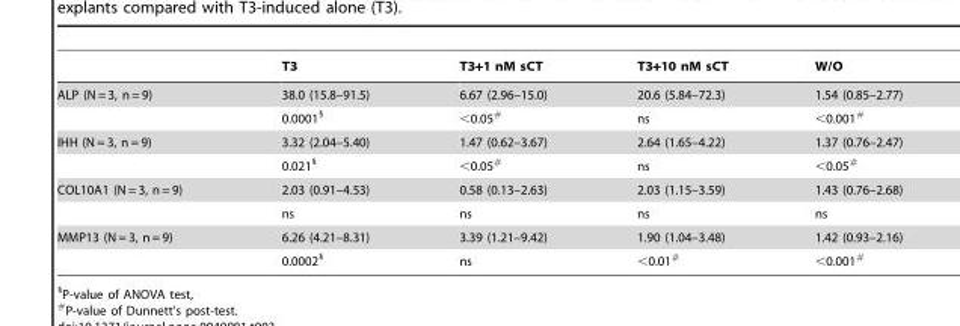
<table><thead><tr><td></td><td>T3</td><td>T3+1 nM sCT</td><td>T3+10 nM sCT</td><td>W/O</td></tr></thead><tbody><tr><td rowspan="2">ALP (N = 3, n = 9)</td><td>38.0 (15.8–91.5)</td><td>6.67 (2.96–15.0)</td><td>20.6 (5.84–72.3)</td><td>1.54 (0.85–2.77)</td></tr><tr><td>0.0001§</td><td>&lt;0.05#</td><td>ns</td><td>&lt;0.001#</td></tr><tr><td rowspan="2">IHH (N = 3, n = 9)</td><td>3.32 (2.04–5.40)</td><td>1.47 (0.62–3.67)</td><td>2.64 (1.65–4.22)</td><td>1.37 (0.76–2.47)</td></tr><tr><td>0.021§</td><td>&lt;0.05#</td><td>ns</td><td>&lt;0.05#</td></tr><tr><td rowspan="2">COL10A1 (N = 3, n = 9)</td><td>2.03 (0.91–4.53)</td><td>0.58 (0.13–2.63)</td><td>2.03 (1.15–3.59)</td><td>1.43 (0.76–2.68)</td></tr><tr><td>ns</td><td>ns</td><td>ns</td><td>ns</td></tr><tr><td rowspan="2">MMP13 (N = 3, n = 9)</td><td>6.26 (4.21–8.31)</td><td>3.39 (1.21–9.42)</td><td>1.90 (1.04–3.48)</td><td>1.42 (0.93–2.16)</td></tr><tr><td>0.0002§</td><td>ns</td><td>&lt;0.01#</td><td>&lt;0.001#</td></tr></tbody></table>